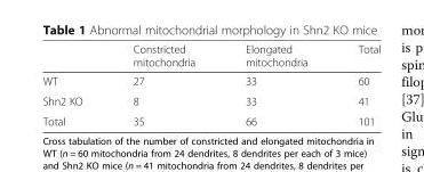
<table><thead><tr><td></td><td>Constricted mitochondria</td><td>Elongated mitochondria</td><td>Total</td></tr></thead><tbody><tr><td>WT</td><td>27</td><td>33</td><td>60</td></tr><tr><td>Shn2 KO</td><td>8</td><td>33</td><td>41</td></tr><tr><td>Total</td><td>35</td><td>66</td><td>101</td></tr></tbody></table>